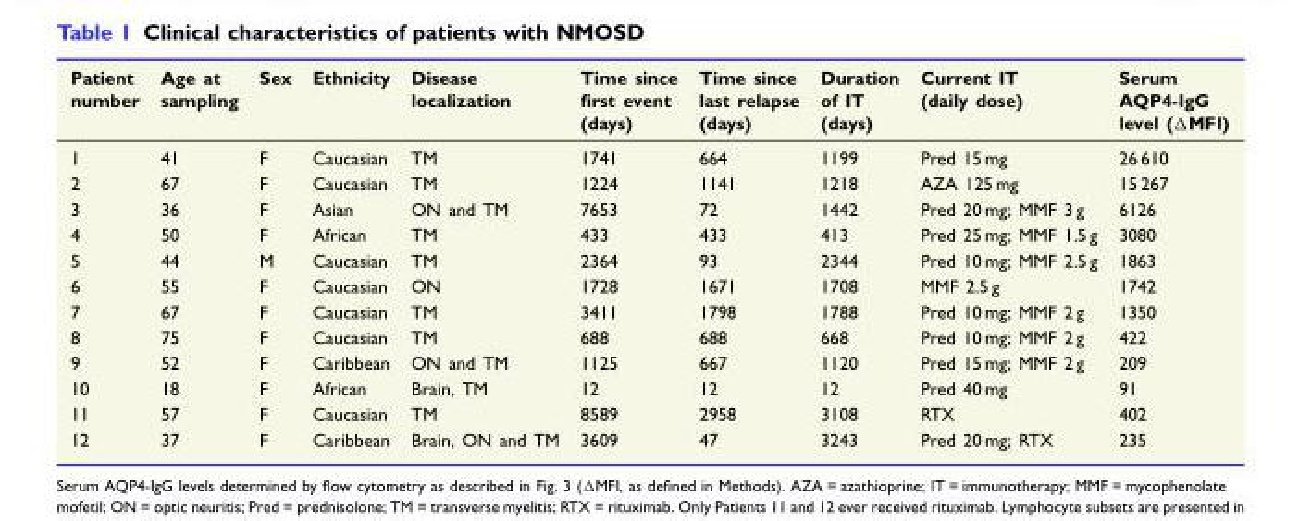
<table><thead><tr><td>Patient number</td><td>Age at sampling</td><td>Sex</td><td>Ethnicity</td><td>Disease localization</td><td>Time since first event (days)</td><td>Time since last relapse (days)</td><td>Duration of IT (days)</td><td>Current IT (daily dose)</td><td>Serum AQP4-IgG level (ΔMFI)</td></tr></thead><tbody><tr><td>1</td><td>41</td><td>F</td><td>Caucasian</td><td>TM</td><td>1741</td><td>664</td><td>1199</td><td>Pred 15 mg</td><td>26 610</td></tr><tr><td>2</td><td>67</td><td>F</td><td>Caucasian</td><td>TM</td><td>1224</td><td>1141</td><td>1218</td><td>AZA 125 mg</td><td>15 267</td></tr><tr><td>3</td><td>36</td><td>F</td><td>Asian</td><td>ON and TM</td><td>7653</td><td>72</td><td>1442</td><td>Pred 20 mg; MMF 3 g</td><td>6126</td></tr><tr><td>4</td><td>50</td><td>F</td><td>African</td><td>TM</td><td>433</td><td>433</td><td>413</td><td>Pred 25 mg; MMF 1.5 g</td><td>3080</td></tr><tr><td>5</td><td>44</td><td>M</td><td>Caucasian</td><td>TM</td><td>2364</td><td>93</td><td>2344</td><td>Pred 10 mg; MMF 2.5 g</td><td>1863</td></tr><tr><td>6</td><td>55</td><td>F</td><td>Caucasian</td><td>ON</td><td>1728</td><td>1671</td><td>1708</td><td>MMF 2.5 g</td><td>1742</td></tr><tr><td>7</td><td>67</td><td>F</td><td>Caucasian</td><td>TM</td><td>3411</td><td>1798</td><td>1788</td><td>Pred 10 mg; MMF 2 g</td><td>1350</td></tr><tr><td>8</td><td>75</td><td>F</td><td>Caucasian</td><td>TM</td><td>688</td><td>688</td><td>668</td><td>Pred 10 mg; MMF 2 g</td><td>422</td></tr><tr><td>9</td><td>52</td><td>F</td><td>Caribbean</td><td>ON and TM</td><td>1125</td><td>667</td><td>1120</td><td>Pred 15 mg; MMF 2 g</td><td>209</td></tr><tr><td>10</td><td>18</td><td>F</td><td>African</td><td>Brain, TM</td><td>12</td><td>12</td><td>12</td><td>Pred 40 mg</td><td>91</td></tr><tr><td>11</td><td>57</td><td>F</td><td>Caucasian</td><td>TM</td><td>8589</td><td>2958</td><td>3108</td><td>RTX</td><td>402</td></tr><tr><td>12</td><td>37</td><td>F</td><td>Caribbean</td><td>Brain, ON and TM</td><td>3609</td><td>47</td><td>3243</td><td>Pred 20 mg; RTX</td><td>235</td></tr></tbody></table>